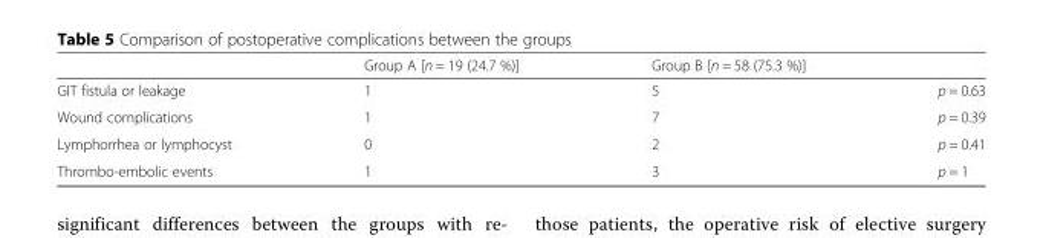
<table><thead><tr><td></td><td>Group A [n = 19 (24.7 %)]</td><td>Group B [n = 58 (75.3 %)]</td><td></td></tr></thead><tbody><tr><td>GIT fistula or leakage</td><td>1</td><td>5</td><td>p = 0.63</td></tr><tr><td>Wound complications</td><td>1</td><td>7</td><td>p = 0.39</td></tr><tr><td>Lymphorrhea or lymphocyst</td><td>0</td><td>2</td><td>p = 0.41</td></tr><tr><td>Thrombo-embolic events</td><td>1</td><td>3</td><td>p = 1</td></tr></tbody></table>